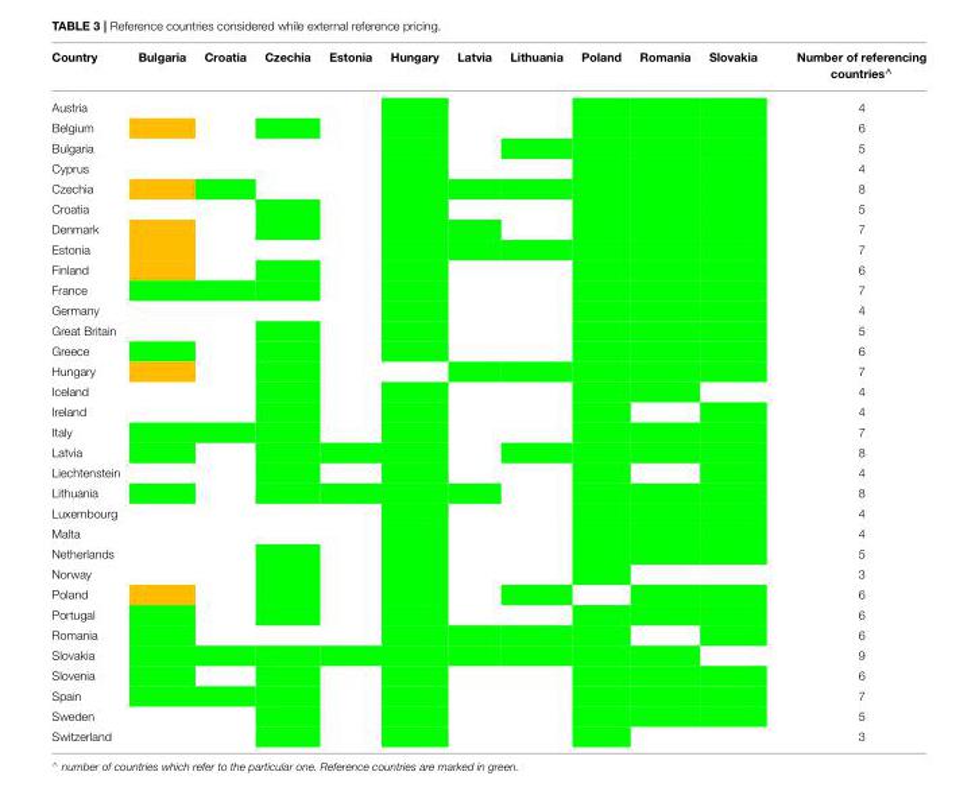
<table><thead><tr><td>Country</td><td>Bulgaria</td><td>Croatia</td><td>Czechia</td><td>Estonia</td><td>Hungary</td><td>Latvia</td><td>Lithuania</td><td>Poland</td><td>Romania</td><td>Slovakia</td><td>Number of referencing countries<sup>∧</sup></td></tr></thead><tbody><tr><td>Austria</td><td></td><td></td><td></td><td></td><td></td><td></td><td></td><td></td><td></td><td></td><td>4</td></tr><tr><td>Belgium</td><td></td><td></td><td></td><td></td><td></td><td></td><td></td><td></td><td></td><td></td><td>6</td></tr><tr><td>Bulgaria</td><td></td><td></td><td></td><td></td><td></td><td></td><td></td><td></td><td></td><td></td><td>5</td></tr><tr><td>Cyprus</td><td></td><td></td><td></td><td></td><td></td><td></td><td></td><td></td><td></td><td></td><td>4</td></tr><tr><td>Czechia</td><td></td><td></td><td></td><td></td><td></td><td></td><td></td><td></td><td></td><td></td><td>8</td></tr><tr><td>Croatia</td><td></td><td></td><td></td><td></td><td></td><td></td><td></td><td></td><td></td><td></td><td>5</td></tr><tr><td>Denmark</td><td></td><td></td><td></td><td></td><td></td><td></td><td></td><td></td><td></td><td></td><td>7</td></tr><tr><td>Estonia</td><td></td><td></td><td></td><td></td><td></td><td></td><td></td><td></td><td></td><td></td><td>7</td></tr><tr><td>Finland</td><td></td><td></td><td></td><td></td><td></td><td></td><td></td><td></td><td></td><td></td><td>6</td></tr><tr><td>France</td><td></td><td></td><td></td><td></td><td></td><td></td><td></td><td></td><td></td><td></td><td>7</td></tr><tr><td>Germany</td><td></td><td></td><td></td><td></td><td></td><td></td><td></td><td></td><td></td><td></td><td>4</td></tr><tr><td>Great Britain</td><td></td><td></td><td></td><td></td><td></td><td></td><td></td><td></td><td></td><td></td><td>5</td></tr><tr><td>Greece</td><td></td><td></td><td></td><td></td><td></td><td></td><td></td><td></td><td></td><td></td><td>6</td></tr><tr><td>Hungary</td><td></td><td></td><td></td><td></td><td></td><td></td><td></td><td></td><td></td><td></td><td>7</td></tr><tr><td>Iceland</td><td></td><td></td><td></td><td></td><td></td><td></td><td></td><td></td><td></td><td></td><td>4</td></tr><tr><td>Ireland</td><td></td><td></td><td></td><td></td><td></td><td></td><td></td><td></td><td></td><td></td><td>4</td></tr><tr><td>Italy</td><td></td><td></td><td></td><td></td><td></td><td></td><td></td><td></td><td></td><td></td><td>7</td></tr><tr><td>Latvia</td><td></td><td></td><td></td><td></td><td></td><td></td><td></td><td></td><td></td><td></td><td>8</td></tr><tr><td>Liechtenstein</td><td></td><td></td><td></td><td></td><td></td><td></td><td></td><td></td><td></td><td></td><td>4</td></tr><tr><td>Lithuania</td><td></td><td></td><td></td><td></td><td></td><td></td><td></td><td></td><td></td><td></td><td>8</td></tr><tr><td>Luxembourg</td><td></td><td></td><td></td><td></td><td></td><td></td><td></td><td></td><td></td><td></td><td>4</td></tr><tr><td>Malta</td><td></td><td></td><td></td><td></td><td></td><td></td><td></td><td></td><td></td><td></td><td>4</td></tr><tr><td>Netherlands</td><td></td><td></td><td></td><td></td><td></td><td></td><td></td><td></td><td></td><td></td><td>5</td></tr><tr><td>Norway</td><td></td><td></td><td></td><td></td><td></td><td></td><td></td><td></td><td></td><td></td><td>3</td></tr><tr><td>Poland</td><td></td><td></td><td></td><td></td><td></td><td></td><td></td><td></td><td></td><td></td><td>6</td></tr><tr><td>Portugal</td><td></td><td></td><td></td><td></td><td></td><td></td><td></td><td></td><td></td><td></td><td>6</td></tr><tr><td>Romania</td><td></td><td></td><td></td><td></td><td></td><td></td><td></td><td></td><td></td><td></td><td>6</td></tr><tr><td>Slovakia</td><td></td><td></td><td></td><td></td><td></td><td></td><td></td><td></td><td></td><td></td><td>9</td></tr><tr><td>Slovenia</td><td></td><td></td><td></td><td></td><td></td><td></td><td></td><td></td><td></td><td></td><td>6</td></tr><tr><td>Spain</td><td></td><td></td><td></td><td></td><td></td><td></td><td></td><td></td><td></td><td></td><td>7</td></tr><tr><td>Sweden</td><td></td><td></td><td></td><td></td><td></td><td></td><td></td><td></td><td></td><td></td><td>5</td></tr><tr><td>Switzerland</td><td></td><td></td><td></td><td></td><td></td><td></td><td></td><td></td><td></td><td></td><td>3</td></tr></tbody></table>